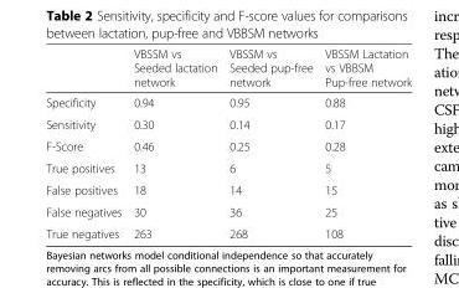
<table><thead><tr><td></td><td>VBSSM vs Seeded lactation network</td><td>VBSSM vs Seeded pup-free network</td><td>VBSSM Lactation vs VBBSM Pup-free network</td></tr></thead><tbody><tr><td>Specificity</td><td>0.94</td><td>0.95</td><td>0.88</td></tr><tr><td>Sensitivity</td><td>0.30</td><td>0.14</td><td>0.17</td></tr><tr><td>F-Score</td><td>0.46</td><td>0.25</td><td>0.28</td></tr><tr><td>True positives</td><td>13</td><td>6</td><td>5</td></tr><tr><td>False positives</td><td>18</td><td>14</td><td>15</td></tr><tr><td>False negatives</td><td>30</td><td>36</td><td>25</td></tr><tr><td>True negatives</td><td>263</td><td>268</td><td>108</td></tr></tbody></table>